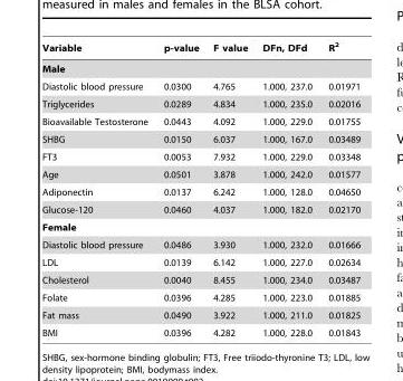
<table><thead><tr><td>Variable</td><td>p-value</td><td>F value</td><td>DFn, DFd</td><td>R<sup>2</sup></td></tr></thead><tbody><tr><td colspan="5">Male</td></tr><tr><td>Diastolic blood pressure</td><td>0.0300</td><td>4.765</td><td>1.000, 237.0</td><td>0.01971</td></tr><tr><td>Triglycerides</td><td>0.0289</td><td>4.834</td><td>1.000, 235.0</td><td>0.02016</td></tr><tr><td>Bioavailable Testosterone</td><td>0.0443</td><td>4.092</td><td>1.000, 229.0</td><td>0.01755</td></tr><tr><td>SHBG</td><td>0.0150</td><td>6.037</td><td>1.000, 167.0</td><td>0.03489</td></tr><tr><td>FT3</td><td>0.0053</td><td>7.932</td><td>1.000, 229.0</td><td>0.03348</td></tr><tr><td>Age</td><td>0.0501</td><td>3.878</td><td>1.000, 242.0</td><td>0.01577</td></tr><tr><td>Adiponectin</td><td>0.0137</td><td>6.242</td><td>1.000, 128.0</td><td>0.04650</td></tr><tr><td>Glucose-120</td><td>0.0460</td><td>4.037</td><td>1.000, 182.0</td><td>0.02170</td></tr><tr><td colspan="5">Female</td></tr><tr><td>Diastolic blood pressure</td><td>0.0486</td><td>3.930</td><td>1.000, 232.0</td><td>0.01666</td></tr><tr><td>LDL</td><td>0.0139</td><td>6.142</td><td>1.000, 227.0</td><td>0.02634</td></tr><tr><td>Cholesterol</td><td>0.0040</td><td>8.455</td><td>1.000, 234.0</td><td>0.03487</td></tr><tr><td>Folate</td><td>0.0396</td><td>4.285</td><td>1.000, 223.0</td><td>0.01885</td></tr><tr><td>Fat mass</td><td>0.0490</td><td>3.922</td><td>1.000, 211.0</td><td>0.01825</td></tr><tr><td>BMI</td><td>0.0396</td><td>4.282</td><td>1.000, 228.0</td><td>0.01843</td></tr></tbody></table>